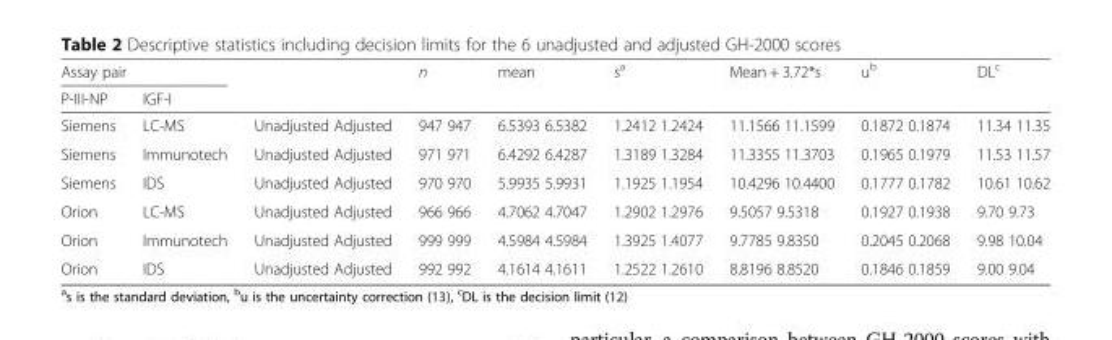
<table><thead><tr><td colspan="2">Assay pair</td><td rowspan="2"></td><td rowspan="2">n</td><td rowspan="2">mean</td><td rowspan="2">s<sup>a</sup></td><td rowspan="2">Mean + 3.72*s</td><td rowspan="2">u<sup>b</sup></td><td rowspan="2">DL<sup>c</sup></td></tr><tr><td>P-III-NP</td><td>IGF-I</td></tr></thead><tbody><tr><td>Siemens</td><td>LC-MS</td><td>Unadjusted Adjusted</td><td>947 947</td><td>6.5393 6.5382</td><td>1.2412 1.2424</td><td>11.1566 11.1599</td><td>0.1872 0.1874</td><td>11.34 11.35</td></tr><tr><td>Siemens</td><td>Immunotech</td><td>Unadjusted Adjusted</td><td>971 971</td><td>6.4292 6.4287</td><td>1.3189 1.3284</td><td>11.3355 11.3703</td><td>0.1965 0.1979</td><td>11.53 11.57</td></tr><tr><td>Siemens</td><td>IDS</td><td>Unadjusted Adjusted</td><td>970 970</td><td>5.9935 5.9931</td><td>1.1925 1.1954</td><td>10.4296 10.4400</td><td>0.1777 0.1782</td><td>10.61 10.62</td></tr><tr><td>Orion</td><td>LC-MS</td><td>Unadjusted Adjusted</td><td>966 966</td><td>4.7062 4.7047</td><td>1.2902 1.2976</td><td>9.5057 9.5318</td><td>0.1927 0.1938</td><td>9.70 9.73</td></tr><tr><td>Orion</td><td>Immunotech</td><td>Unadjusted Adjusted</td><td>999 999</td><td>4.5984 4.5984</td><td>1.3925 1.4077</td><td>9.7785 9.8350</td><td>0.2045 0.2068</td><td>9.98 10.04</td></tr><tr><td>Orion</td><td>IDS</td><td>Unadjusted Adjusted</td><td>992 992</td><td>4.1614 4.1611</td><td>1.2522 1.2610</td><td>8.8196 8.8520</td><td>0.1846 0.1859</td><td>9.00 9.04</td></tr></tbody></table>